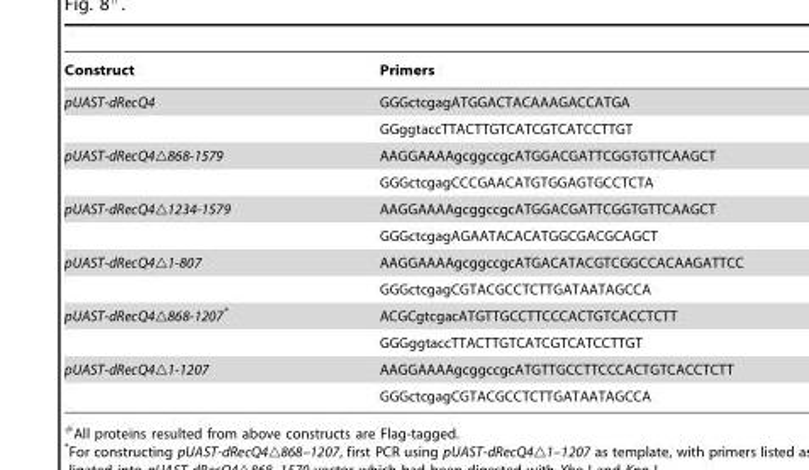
<table><thead><tr><td>Construct</td><td>Primers</td></tr></thead><tbody><tr><td rowspan="2">pUAST-dRecQ4</td><td>GGGctcgagATGGACTACAAAGACCATGA</td></tr><tr><td>GGggtaccTTACTTGTCATCGTCATCCTTGT</td></tr><tr><td rowspan="2">pUAST-dRecQ4△868-1579</td><td>AAGGAAAAgcggccgcATGGACGATTCGGTGTTCAAGCT</td></tr><tr><td>GGGctcgagCCCGAACATGTGGAGTGCCTCTA</td></tr><tr><td rowspan="2">pUAST-dRecQ4△1234-1579</td><td>AAGGAAAAgcggccgcATGGACGATTCGGTGTTCAAGCT</td></tr><tr><td>GGGctcgagAGAATACACATGGCGACGCAGCT</td></tr><tr><td rowspan="2">pUAST-dRecQ4△1-807</td><td>AAGGAAAAgcggccgcATGACATACGTCGGCCACAAGATTCC</td></tr><tr><td>GGGctcgagCGTACGCCTCTTGATAATAGCCA</td></tr><tr><td rowspan="2">pUAST-dRecQ4△868-1207*</td><td>ACGCgtcgacATGTTGCCTTCCCACTGTCACCTCTT</td></tr><tr><td>GGGggtaccTTACTTGTCATCGTCATCCTTGT</td></tr><tr><td rowspan="2">pUAST-dRecQ4△1-1207</td><td>AAGGAAAAgcggccgcATGTTGCCTTCCCACTGTCACCTCTT</td></tr><tr><td>GGGctcgagCGTACGCCTCTTGATAATAGCCA</td></tr></tbody></table>